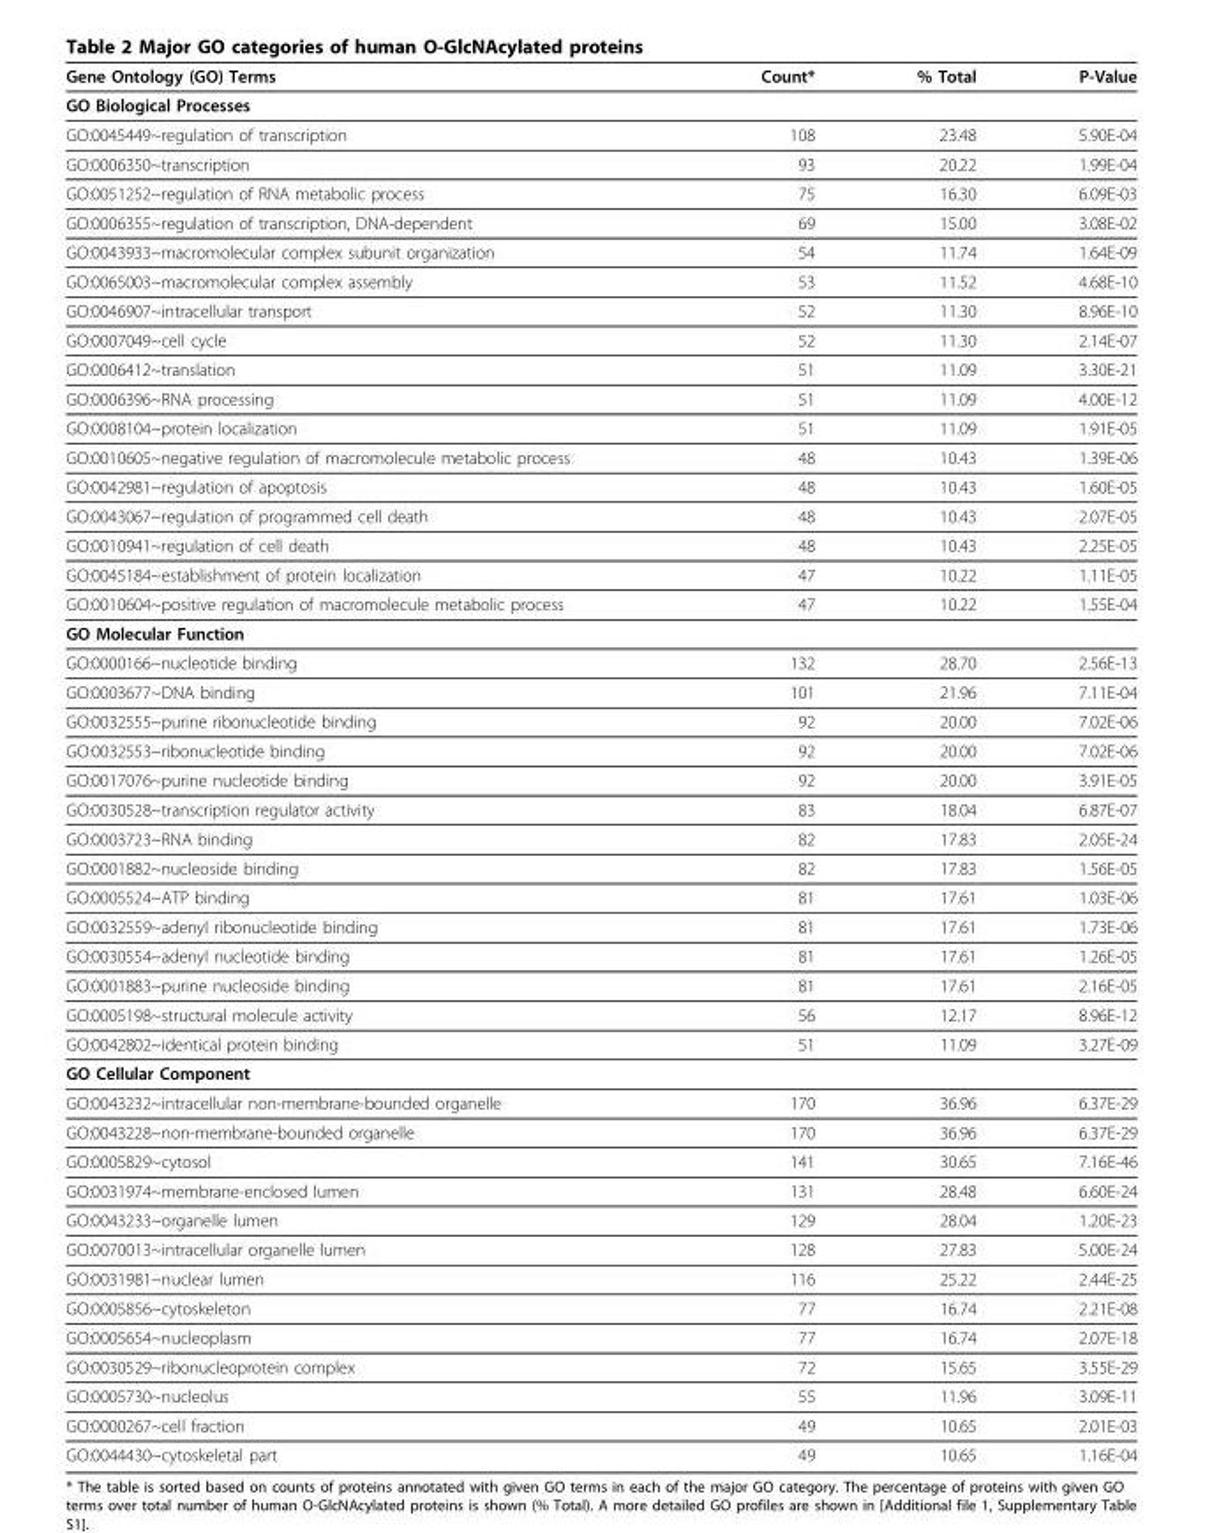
<table><thead><tr><td>Gene Ontology (GO) Terms</td><td>Count*</td><td>% Total</td><td>P-Value</td></tr></thead><tbody><tr><td colspan="4">GO Biological Processes</td></tr><tr><td>GO:0045449~regulation of transcription</td><td>108</td><td>23.48</td><td>5.90E-04</td></tr><tr><td>GO:0006350~transcription</td><td>93</td><td>20.22</td><td>1.99E-04</td></tr><tr><td>GO:0051252~regulation of RNA metabolic process</td><td>75</td><td>16.30</td><td>6.09E-03</td></tr><tr><td>GO:0006355~regulation of transcription, DNA-dependent</td><td>69</td><td>15.00</td><td>3.08E-02</td></tr><tr><td>GO:0043933~macromolecular complex subunit organization</td><td>54</td><td>11.74</td><td>1.64E-09</td></tr><tr><td>GO:0065003~macromolecular complex assembly</td><td>53</td><td>11.52</td><td>4.68E-10</td></tr><tr><td>GO:0046907~intracellular transport</td><td>52</td><td>11.30</td><td>8.96E-10</td></tr><tr><td>GO:0007049~cell cycle</td><td>52</td><td>11.30</td><td>2.14E-07</td></tr><tr><td>GO:0006412~translation</td><td>51</td><td>11.09</td><td>3.30E-21</td></tr><tr><td>GO:0006396~RNA processing</td><td>51</td><td>11.09</td><td>4.00E-12</td></tr><tr><td>GO:0008104~protein localization</td><td>51</td><td>11.09</td><td>1.91E-05</td></tr><tr><td>GO:0010605~negative regulation of macromolecule metabolic process</td><td>48</td><td>10.43</td><td>1.39E-06</td></tr><tr><td>GO:0042981~regulation of apoptosis</td><td>48</td><td>10.43</td><td>1.60E-05</td></tr><tr><td>GO:0043067~regulation of programmed cell death</td><td>48</td><td>10.43</td><td>2.07E-05</td></tr><tr><td>GO:0010941~regulation of cell death</td><td>48</td><td>10.43</td><td>2.25E-05</td></tr><tr><td>GO:0045184~establishment of protein localization</td><td>47</td><td>10.22</td><td>1.11E-05</td></tr><tr><td>GO:0010604~positive regulation of macromolecule metabolic process</td><td>47</td><td>10.22</td><td>1.55E-04</td></tr><tr><td colspan="4">GO Molecular Function</td></tr><tr><td>GO:0000166~nucleotide binding</td><td>132</td><td>28.70</td><td>2.56E-13</td></tr><tr><td>GO:0003677~DNA binding</td><td>101</td><td>21.96</td><td>7.11E-04</td></tr><tr><td>GO:0032555~purine ribonucleotide binding</td><td>92</td><td>20.00</td><td>7.02E-06</td></tr><tr><td>GO:0032553~ribonucleotide binding</td><td>92</td><td>20.00</td><td>7.02E-06</td></tr><tr><td>GO:0017076~purine nucleotide binding</td><td>92</td><td>20.00</td><td>3.91E-05</td></tr><tr><td>GO:0030528~transcription regulator activity</td><td>83</td><td>18.04</td><td>6.87E-07</td></tr><tr><td>GO:0003723~RNA binding</td><td>82</td><td>17.83</td><td>2.05E-24</td></tr><tr><td>GO:0001882~nucleoside binding</td><td>82</td><td>17.83</td><td>1.56E-05</td></tr><tr><td>GO:0005524~ATP binding</td><td>81</td><td>17.61</td><td>1.03E-06</td></tr><tr><td>GO:0032559~adenyl ribonucleotide binding</td><td>81</td><td>17.61</td><td>1.73E-06</td></tr><tr><td>GO:0030554~adenyl nucleotide binding</td><td>81</td><td>17.61</td><td>1.26E-05</td></tr><tr><td>GO:0001883~purine nucleoside binding</td><td>81</td><td>17.61</td><td>2.16E-05</td></tr><tr><td>GO:0005198~structural molecule activity</td><td>56</td><td>12.17</td><td>8.96E-12</td></tr><tr><td>GO:0042802~identical protein binding</td><td>51</td><td>11.09</td><td>3.27E-09</td></tr><tr><td colspan="4">GO Cellular Component</td></tr><tr><td>GO:0043232~intracellular non-membrane-bounded organelle</td><td>170</td><td>36.96</td><td>6.37E-29</td></tr><tr><td>GO:0043228~non-membrane-bounded organelle</td><td>170</td><td>36.96</td><td>6.37E-29</td></tr><tr><td>GO:0005829~cytosol</td><td>141</td><td>30.65</td><td>7.16E-46</td></tr><tr><td>GO:0031974~membrane-enclosed lumen</td><td>131</td><td>28.48</td><td>6.60E-24</td></tr><tr><td>GO:0043233~organelle lumen</td><td>129</td><td>28.04</td><td>1.20E-23</td></tr><tr><td>GO:0070013~intracellular organelle lumen</td><td>128</td><td>27.83</td><td>5.00E-24</td></tr><tr><td>GO:0031981~nuclear lumen</td><td>116</td><td>25.22</td><td>2.44E-25</td></tr><tr><td>GO:0005856~cytoskeleton</td><td>77</td><td>16.74</td><td>2.21E-08</td></tr><tr><td>GO:0005654~nucleoplasm</td><td>77</td><td>16.74</td><td>2.07E-18</td></tr><tr><td>GO:0030529~ribonucleoprotein complex</td><td>72</td><td>15.65</td><td>3.55E-29</td></tr><tr><td>GO:0005730~nucleolus</td><td>55</td><td>11.96</td><td>3.09E-11</td></tr><tr><td>GO:0000267~cell fraction</td><td>49</td><td>10.65</td><td>2.01E-03</td></tr><tr><td>GO:0044430~cytoskeletal part</td><td>49</td><td>10.65</td><td>1.16E-04</td></tr></tbody></table>